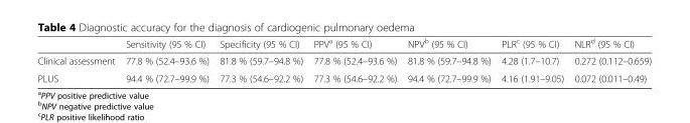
<table><thead><tr><td></td><td>Sensitivity (95 % CI)</td><td>Specificity (95 % CI)</td><td>PPV<sup>a</sup> (95 % CI)</td><td>NPV<sup>b</sup> (95 % CI)</td><td>PLR<sup>c</sup> (95 % CI)</td><td>NLR<sup>d</sup> (95 % CI)</td></tr></thead><tbody><tr><td>Clinical assessment</td><td>77.8 % (52.4–93.6 %)</td><td>81.8 % (59.7–94.8 %)</td><td>77.8 % (52.4–93.6 %)</td><td>81.8 % (59.7–94.8 %)</td><td>4.28 (1.7–10.7)</td><td>0.272 (0.112–0.659)</td></tr><tr><td>PLUS</td><td>94.4 % (72.7–99.9 %)</td><td>77.3 % (54.6–92.2 %)</td><td>77.3 % (54.6–92.2 %)</td><td>94.4 % (72.7–99.9 %)</td><td>4.16 (1.91–9.05)</td><td>0.072 (0.011–0.49)</td></tr></tbody></table>